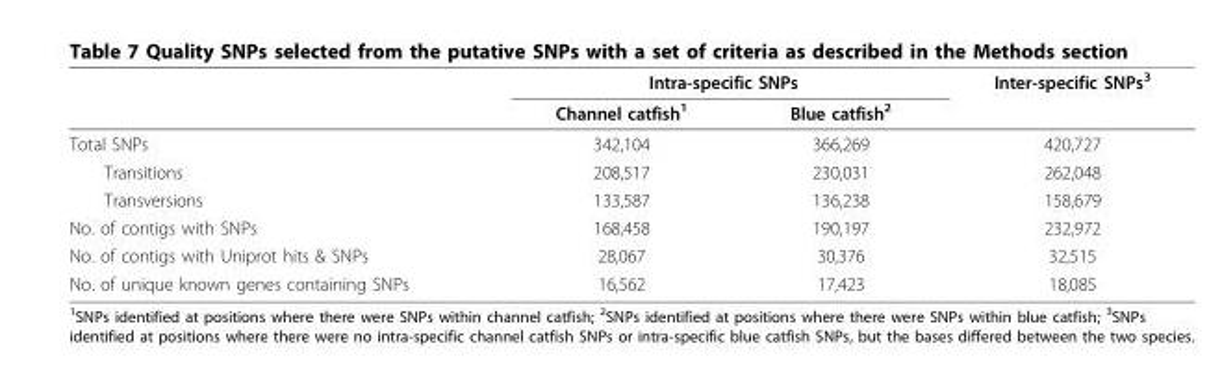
<table><thead><tr><td rowspan="2"></td><td colspan="2">Intra-specific SNPs</td><td rowspan="2">Inter-specific SNPs<sup>3</sup></td></tr><tr><td>Channel catfish<sup>1</sup></td><td>Blue catfish<sup>2</sup></td></tr></thead><tbody><tr><td>Total SNPs</td><td>342,104</td><td>366,269</td><td>420,727</td></tr><tr><td>Transitions</td><td>208,517</td><td>230,031</td><td>262,048</td></tr><tr><td>Transversions</td><td>133,587</td><td>136,238</td><td>158,679</td></tr><tr><td>No. of contigs with SNPs</td><td>168,458</td><td>190,197</td><td>232,972</td></tr><tr><td>No. of contigs with Uniprot hits &amp; SNPs</td><td>28,067</td><td>30,376</td><td>32,515</td></tr><tr><td>No. of unique known genes containing SNPs</td><td>16,562</td><td>17,423</td><td>18,085</td></tr></tbody></table>